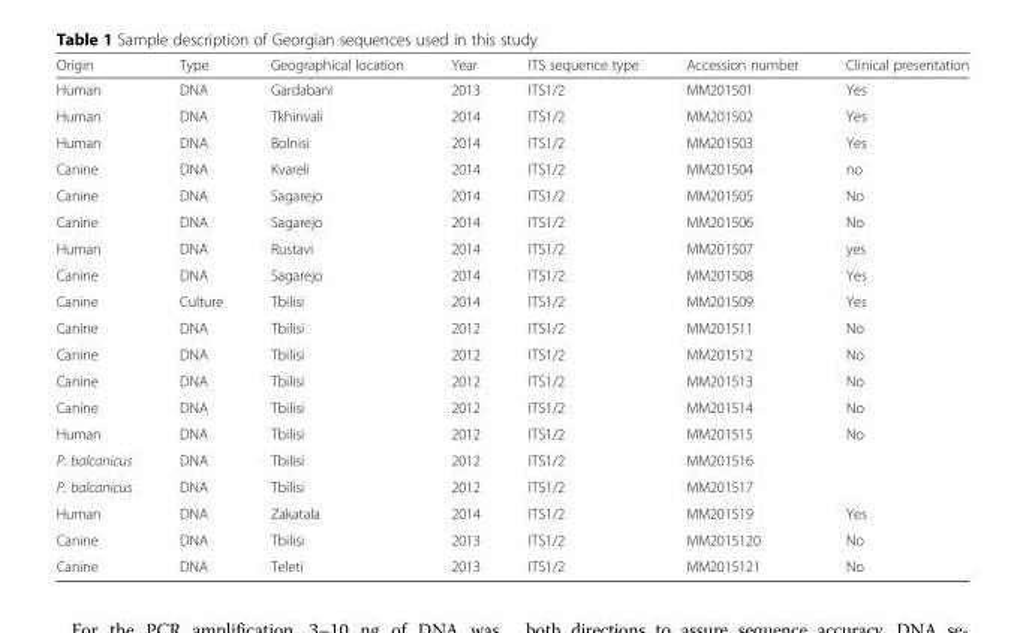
<table><thead><tr><td>Origin</td><td>Type</td><td>Geographical location</td><td>Year</td><td>ITS sequence type</td><td>Accession number</td><td>Clinical presentation</td></tr></thead><tbody><tr><td>Human</td><td>DNA</td><td>Gardabani</td><td>2013</td><td>ITS1/2</td><td>MM201501</td><td>Yes</td></tr><tr><td>Human</td><td>DNA</td><td>Tkhinvali</td><td>2014</td><td>ITS1/2</td><td>MM201502</td><td>Yes</td></tr><tr><td>Human</td><td>DNA</td><td>Bolnisi</td><td>2014</td><td>ITS1/2</td><td>MM201503</td><td>Yes</td></tr><tr><td>Canine</td><td>DNA</td><td>Kvareli</td><td>2014</td><td>ITS1/2</td><td>MM201504</td><td>no</td></tr><tr><td>Canine</td><td>DNA</td><td>Sagarejo</td><td>2014</td><td>ITS1/2</td><td>MM201505</td><td>No</td></tr><tr><td>Canine</td><td>DNA</td><td>Sagarejo</td><td>2014</td><td>ITS1/2</td><td>MM201506</td><td>No</td></tr><tr><td>Human</td><td>DNA</td><td>Rustavi</td><td>2014</td><td>ITS1/2</td><td>MM201507</td><td>yes</td></tr><tr><td>Canine</td><td>DNA</td><td>Sagarejo</td><td>2014</td><td>ITS1/2</td><td>MM201508</td><td>Yes</td></tr><tr><td>Canine</td><td>Culture</td><td>Tbilisi</td><td>2014</td><td>ITS1/2</td><td>MM201509</td><td>Yes</td></tr><tr><td>Canine</td><td>DNA</td><td>Tbilisi</td><td>2012</td><td>ITS1/2</td><td>MM201511</td><td>No</td></tr><tr><td>Canine</td><td>DNA</td><td>Tbilisi</td><td>2012</td><td>ITS1/2</td><td>MM201512</td><td>No</td></tr><tr><td>Canine</td><td>DNA</td><td>Tbilisi</td><td>2012</td><td>ITS1/2</td><td>MM201513</td><td>No</td></tr><tr><td>Canine</td><td>DNA</td><td>Tbilisi</td><td>2012</td><td>ITS1/2</td><td>MM201514</td><td>No</td></tr><tr><td>Human</td><td>DNA</td><td>Tbilisi</td><td>2012</td><td>ITS1/2</td><td>MM201515</td><td>No</td></tr><tr><td>P. balcanicus</td><td>DNA</td><td>Tbilisi</td><td>2012</td><td>ITS1/2</td><td>MM201516</td><td></td></tr><tr><td>P. balcanicus</td><td>DNA</td><td>Tbilisi</td><td>2012</td><td>ITS1/2</td><td>MM201517</td><td></td></tr><tr><td>Human</td><td>DNA</td><td>Zakatala</td><td>2014</td><td>ITS1/2</td><td>MM201519</td><td>Yes</td></tr><tr><td>Canine</td><td>DNA</td><td>Tbilisi</td><td>2013</td><td>ITS1/2</td><td>MM2015120</td><td>No</td></tr><tr><td>Canine</td><td>DNA</td><td>Teleti</td><td>2013</td><td>ITS1/2</td><td>MM2015121</td><td>No</td></tr></tbody></table>